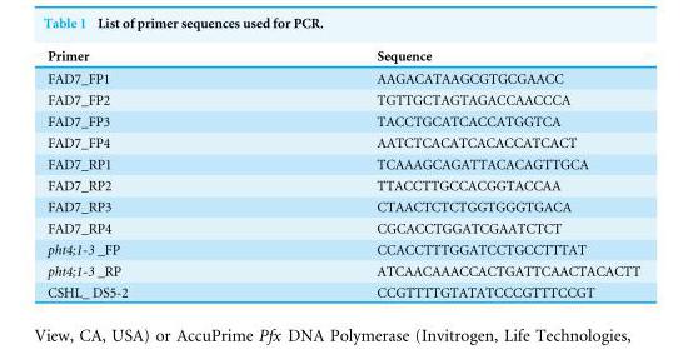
<table><thead><tr><td>Primer</td><td>Sequence</td></tr></thead><tbody><tr><td>FAD7_FP1</td><td>AAGACATAAGCGTGCGAACC</td></tr><tr><td>FAD7_FP2</td><td>TGTTGCTAGTAGACCAACCCA</td></tr><tr><td>FAD7_FP3</td><td>TACCTGCATCACCATGGTCA</td></tr><tr><td>FAD7_FP4</td><td>AATCTCACATCACACCATCACT</td></tr><tr><td>FAD7_RP1</td><td>TCAAAGCAGATTACACAGTTGCA</td></tr><tr><td>FAD7_RP2</td><td>TTACCTTGCCACGGTACCAA</td></tr><tr><td>FAD7_RP3</td><td>CTAACTCTCTGGTGGGTGACA</td></tr><tr><td>FAD7_RP4</td><td>CGCACCTGGATCGAATCTCT</td></tr><tr><td>pht4;1-3 _FP</td><td>CCACCTTTGGATCCTGCCTTTAT</td></tr><tr><td>pht4;1-3 _RP</td><td>ATCAACAAACCACTGATTCAACTACACTT</td></tr><tr><td>CSHL_ DS5-2</td><td>CCGTTTTGTATATCCCGTTTCCGT</td></tr></tbody></table>